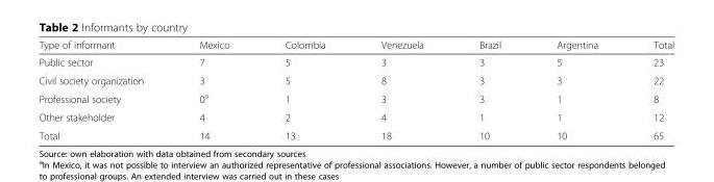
<table><thead><tr><td>Type of informant</td><td>Mexico</td><td>Colombia</td><td>Venezuela</td><td>Brazil</td><td>Argentina</td><td>Total</td></tr></thead><tbody><tr><td>Public sector</td><td>7</td><td>5</td><td>3</td><td>3</td><td>5</td><td>23</td></tr><tr><td>Civil society organization</td><td>3</td><td>5</td><td>8</td><td>3</td><td>3</td><td>22</td></tr><tr><td>Professional society</td><td>0<sup>a</sup></td><td>1</td><td>3</td><td>3</td><td>1</td><td>8</td></tr><tr><td>Other stakeholder</td><td>4</td><td>2</td><td>4</td><td>1</td><td>1</td><td>12</td></tr><tr><td>Total</td><td>14</td><td>13</td><td>18</td><td>10</td><td>10</td><td>65</td></tr></tbody></table>